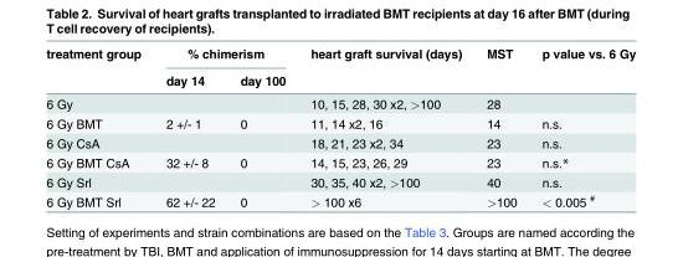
<table><thead><tr><td rowspan="2">treatment group</td><td colspan="2">% chimerism</td><td rowspan="2">heart graft survival (days)</td><td rowspan="2">MST</td><td rowspan="2">p value vs. 6 Gy</td></tr><tr><td>day 14</td><td>day 100</td></tr></thead><tbody><tr><td>6 Gy</td><td></td><td></td><td>10, 15, 28, 30 x2, &gt;100</td><td>28</td><td></td></tr><tr><td>6 Gy BMT</td><td>2 +/- 1</td><td>0</td><td>11, 14 x2, 16</td><td>14</td><td>n.s.</td></tr><tr><td>6 Gy CsA</td><td></td><td></td><td>18, 21, 23 x2, 34</td><td>23</td><td>n.s.</td></tr><tr><td>6 Gy BMT CsA</td><td>32 +/- 8</td><td>0</td><td>14, 15, 23, 26, 29</td><td>23</td><td>n.s.*</td></tr><tr><td>6 Gy Srl</td><td></td><td></td><td>30, 35, 40 x2, &gt;100</td><td>40</td><td>n.s.</td></tr><tr><td>6 Gy BMT Srl</td><td>62 +/- 22</td><td>0</td><td>&gt; 100 x6</td><td>&gt;100</td><td>&lt; 0.005 <sup>#</sup></td></tr></tbody></table>